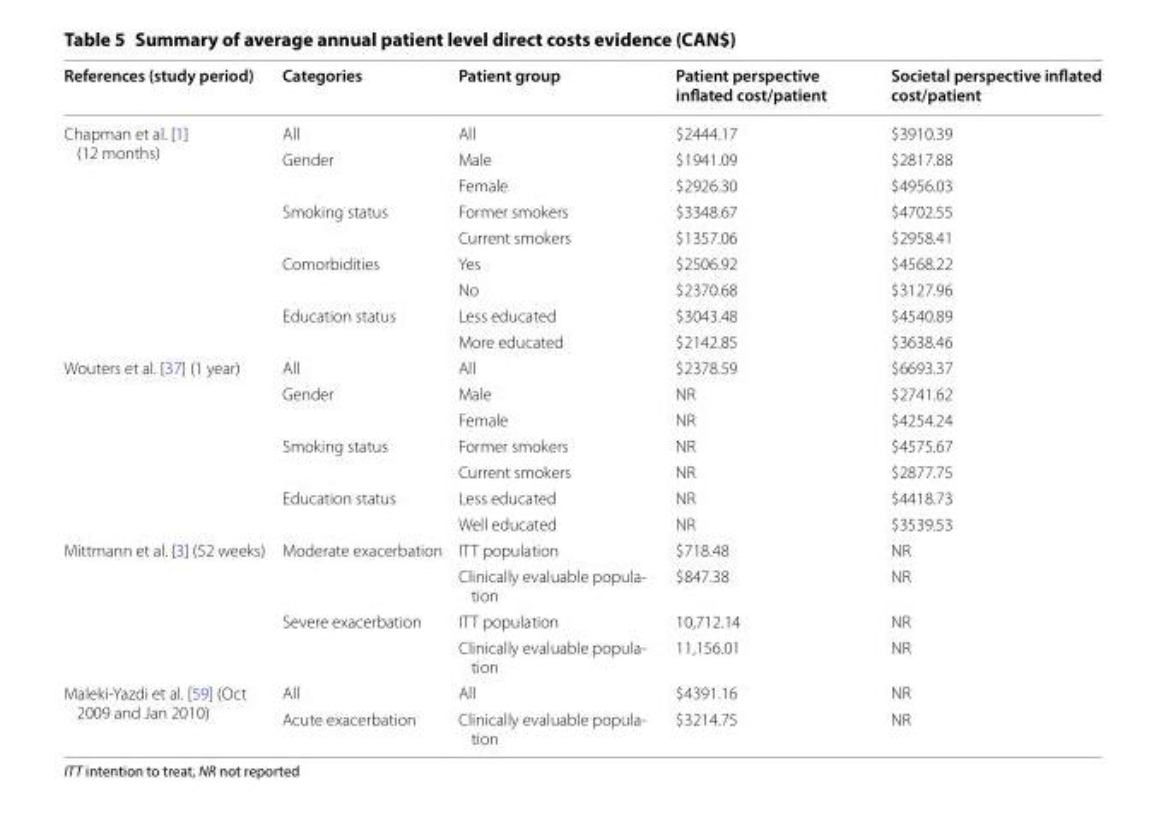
<table><thead><tr><td>References (study period)</td><td>Categories</td><td>Patient group</td><td>Patient perspective inflated cost/patient</td><td>Societal perspective inflated cost/patient</td></tr></thead><tbody><tr><td rowspan="9">Chapman et al. [1] (12 months)</td><td>All</td><td>All</td><td>$2444.17</td><td>$3910.39</td></tr><tr><td rowspan="2">Gender</td><td>Male</td><td>$1941.09</td><td>$2817.88</td></tr><tr><td>Female</td><td>$2926.30</td><td>$4956.03</td></tr><tr><td rowspan="2">Smoking status</td><td>Former smokers</td><td>$3348.67</td><td>$4702.55</td></tr><tr><td>Current smokers</td><td>$1357.06</td><td>$2958.41</td></tr><tr><td rowspan="2">Comorbidities</td><td>Yes</td><td>$2506.92</td><td>$4568.22</td></tr><tr><td>No</td><td>$2370.68</td><td>$3127.96</td></tr><tr><td rowspan="2">Education status</td><td>Less educated</td><td>$3043.48</td><td>$4540.89</td></tr><tr><td>More educated</td><td>$2142.85</td><td>$3638.46</td></tr><tr><td rowspan="7">Wouters et al. [37] (1 year)</td><td>All</td><td>All</td><td>$2378.59</td><td>$6693.37</td></tr><tr><td rowspan="2">Gender</td><td>Male</td><td>NR</td><td>$2741.62</td></tr><tr><td>Female</td><td>NR</td><td>$4254.24</td></tr><tr><td rowspan="2">Smoking status</td><td>Former smokers</td><td>NR</td><td>$4575.67</td></tr><tr><td>Current smokers</td><td>NR</td><td>$2877.75</td></tr><tr><td rowspan="2">Education status</td><td>Less educated</td><td>NR</td><td>$4418.73</td></tr><tr><td>Well educated</td><td>NR</td><td>$3539.53</td></tr><tr><td rowspan="4">Mittmann et al. [3] (52 weeks)</td><td rowspan="2">Moderate exacerbation</td><td>ITT population</td><td>$718.48</td><td>NR</td></tr><tr><td>Clinically evaluable popula‑ tion</td><td>$847.38</td><td>NR</td></tr><tr><td rowspan="2">Severe exacerbation</td><td>ITT population</td><td>10,712.14</td><td>NR</td></tr><tr><td>Clinically evaluable popula‑ tion</td><td>11,156.01</td><td>NR</td></tr><tr><td rowspan="2">Maleki‑Yazdi et al. [59] (Oct 2009 and Jan 2010)</td><td>All</td><td>All</td><td>$4391.16</td><td>NR</td></tr><tr><td>Acute exacerbation</td><td>Clinically evaluable popula‑ tion</td><td>$3214.75</td><td>NR</td></tr></tbody></table>